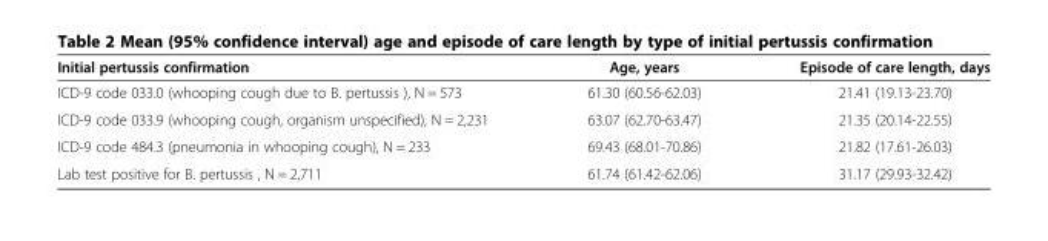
<table><thead><tr><td>Initial pertussis confirmation</td><td>Age, years</td><td>Episode of care length, days</td></tr></thead><tbody><tr><td>ICD-9 code 033.0 (whooping cough due to B. pertussis ), N = 573</td><td>61.30 (60.56-62.03)</td><td>21.41 (19.13-23.70)</td></tr><tr><td>ICD-9 code 033.9 (whooping cough, organism unspecified), N = 2,231</td><td>63.07 (62.70-63.47)</td><td>21.35 (20.14-22.55)</td></tr><tr><td>ICD-9 code 484.3 (pneumonia in whooping cough), N = 233</td><td>69.43 (68.01-70.86)</td><td>21.82 (17.61-26.03)</td></tr><tr><td>Lab test positive for B. pertussis , N = 2,711</td><td>61.74 (61.42-62.06)</td><td>31.17 (29.93-32.42)</td></tr></tbody></table>